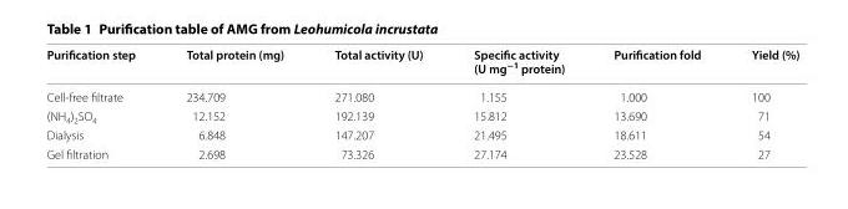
<table><thead><tr><td>Purification step</td><td>Total protein (mg)</td><td>Total activity (U)</td><td>Specific activity (U mg<sup>−1</sup> protein)</td><td>Purification fold</td><td>Yield (%)</td></tr></thead><tbody><tr><td>Cell-free filtrate</td><td>234.709</td><td>271.080</td><td>1.155</td><td>1.000</td><td>100</td></tr><tr><td>(NH<sub>4</sub>)<sub>2</sub>SO<sub>4</sub></td><td>12.152</td><td>192.139</td><td>15.812</td><td>13.690</td><td>71</td></tr><tr><td>Dialysis</td><td>6.848</td><td>147.207</td><td>21.495</td><td>18.611</td><td>54</td></tr><tr><td>Gel filtration</td><td>2.698</td><td>73.326</td><td>27.174</td><td>23.528</td><td>27</td></tr></tbody></table>